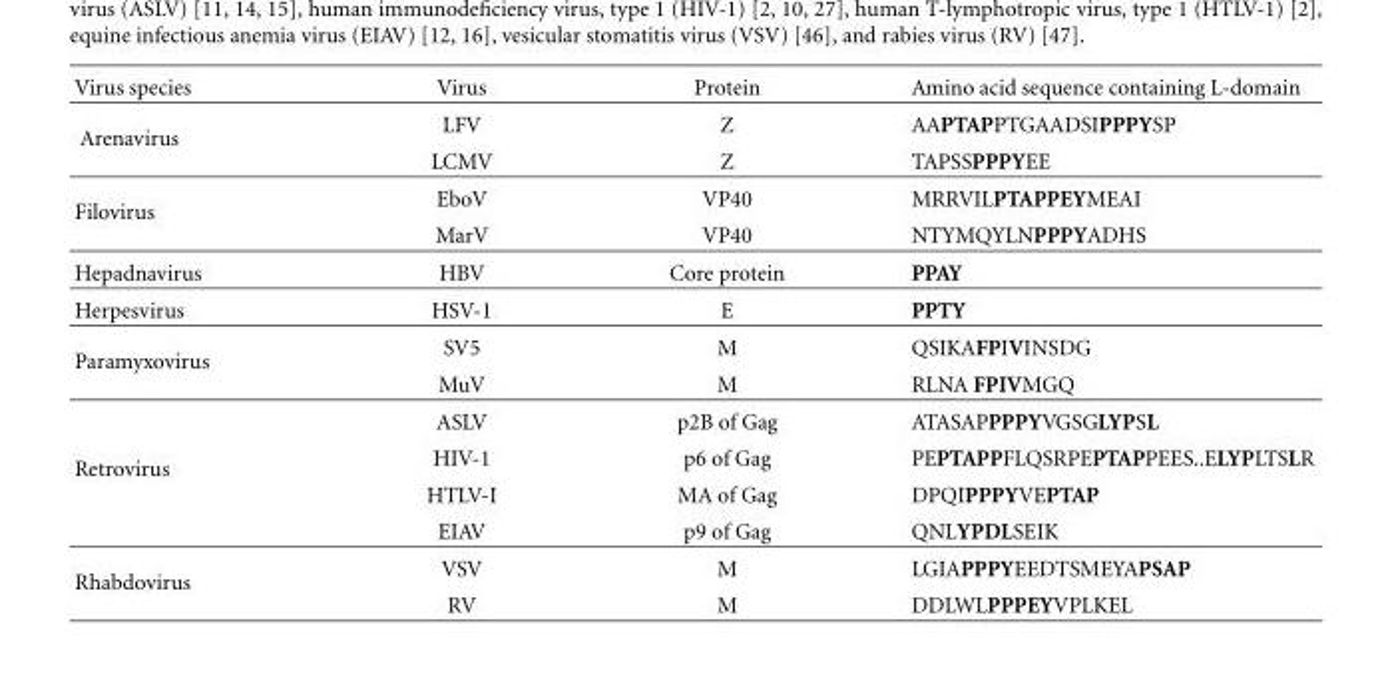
<table><thead><tr><td>Virus species</td><td>Virus</td><td>Protein</td><td>Amino acid sequence containing L-domain</td></tr></thead><tbody><tr><td rowspan="2">Arenavirus</td><td>LFV</td><td>Z</td><td>AAPTAPPTGAADSIPPPYSP</td></tr><tr><td>LCMV</td><td>Z</td><td>TAPSSPPPYEE</td></tr><tr><td rowspan="2">Filovirus</td><td>EboV</td><td>VP40</td><td>MRRVILPTAPPEYMEAI</td></tr><tr><td>MarV</td><td>VP40</td><td>NTYMQYLNPPPYADHS</td></tr><tr><td>Hepadnavirus</td><td>HBV</td><td>Core protein</td><td>PPAY</td></tr><tr><td>Herpesvirus</td><td>HSV-1</td><td>E</td><td>PPTY</td></tr><tr><td rowspan="2">Paramyxovirus</td><td>SV5</td><td>M</td><td>QSIKAFPIVINSDG</td></tr><tr><td>MuV</td><td>M</td><td>RLNA FPIVMGQ</td></tr><tr><td rowspan="4">Retrovirus</td><td>ASLV</td><td>p2B of Gag</td><td>ATASAPPPPYVGSGLYPSL</td></tr><tr><td>HIV-1</td><td>p6 of Gag</td><td>PEPTAPPFLQSRPEPTAPPEES..ELYPLTSLR</td></tr><tr><td>HTLV-I</td><td>MA of Gag</td><td>DPQIPPPYVEPTAP</td></tr><tr><td>EIAV</td><td>p9 of Gag</td><td>QNLYPDLSEIK</td></tr><tr><td rowspan="2">Rhabdovirus</td><td>VSV</td><td>M</td><td>LGIAPPPYEEDTSMEYAPSAP</td></tr><tr><td>RV</td><td>M</td><td>DDLWLPPPEYVPLKEL</td></tr></tbody></table>